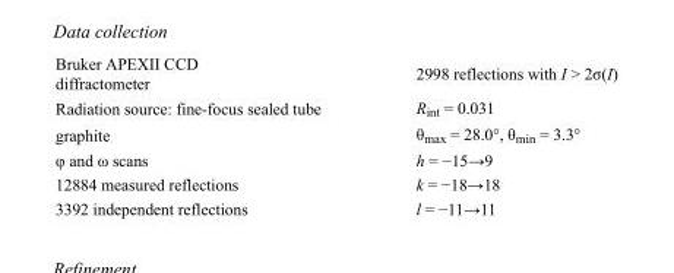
<table><tbody><tr><td>Bruker APEXII CCD diffractometer</td><td>2998 reflections with I &gt; 2σ(I)</td></tr><tr><td>Radiation source: fine-focus sealed tube</td><td>R<sub>int</sub> = 0.031</td></tr><tr><td>graphite</td><td>θ<sub>max</sub> = 28.0°, θ<sub>min</sub> = 3.3°</td></tr><tr><td>φ and ω scans</td><td>h = −15→9</td></tr><tr><td>12884 measured reflections</td><td>k = −18→18</td></tr><tr><td>3392 independent reflections</td><td>l = −11→11</td></tr></tbody></table>